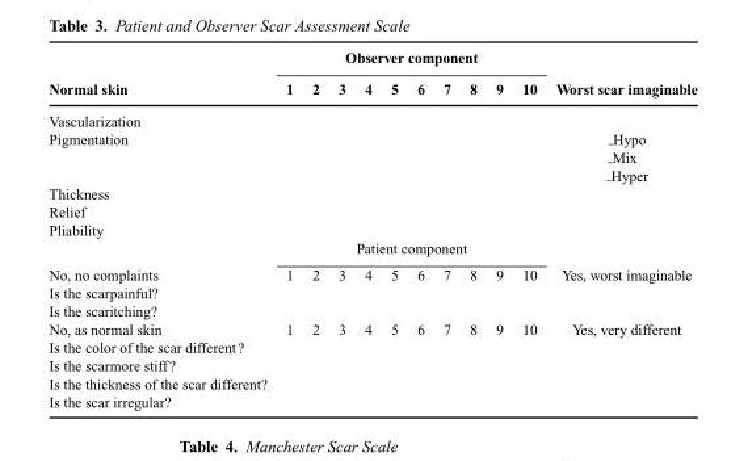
<table><thead><tr><td rowspan="2">Normal skin</td><td colspan="10">Observer component</td><td rowspan="2">Worst scar imaginable</td></tr><tr><td>1</td><td>2</td><td>3</td><td>4</td><td>5</td><td>6</td><td>7</td><td>8</td><td>9</td><td>10</td></tr></thead><tbody><tr><td colspan="12">Vascularization</td></tr><tr><td rowspan="3">Pigmentation</td><td></td><td></td><td></td><td></td><td></td><td></td><td></td><td></td><td></td><td></td><td>Hypo</td></tr><tr><td></td><td></td><td></td><td></td><td></td><td></td><td></td><td></td><td></td><td></td><td>Mix</td></tr><tr><td></td><td></td><td></td><td></td><td></td><td></td><td></td><td></td><td></td><td></td><td>Hyper</td></tr><tr><td colspan="12">Thickness</td></tr><tr><td colspan="12">Relief</td></tr><tr><td colspan="12">Pliability</td></tr><tr><td></td><td colspan="10">Patient component</td><td></td></tr><tr><td>No, no complaints</td><td>1</td><td>2</td><td>3</td><td>4</td><td>5</td><td>6</td><td>7</td><td>8</td><td>9</td><td>10</td><td>Yes, worst imaginable</td></tr><tr><td colspan="12">Is the scarpainful?</td></tr><tr><td colspan="12">Is the scaritching?</td></tr><tr><td>No, as normal skin</td><td>1</td><td>2</td><td>3</td><td>4</td><td>5</td><td>6</td><td>7</td><td>8</td><td>9</td><td>10</td><td>Yes, very different</td></tr><tr><td colspan="12">Is the color of the scar different?</td></tr><tr><td colspan="12">Is the scarmore stiff?</td></tr><tr><td colspan="12">Is the thickness of the scar different?</td></tr><tr><td>Is the scar irregular?</td><td></td><td></td><td></td><td></td><td></td><td></td><td></td><td></td><td></td><td></td><td></td></tr></tbody></table>